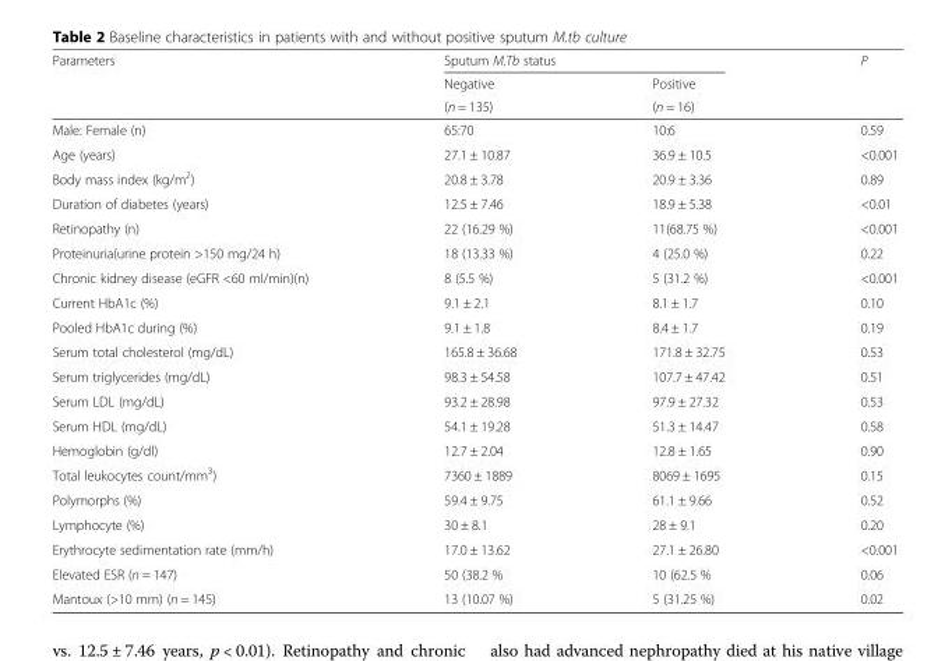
<table><thead><tr><td rowspan="3">Parameters</td><td colspan="2">Sputum M.Tb status</td><td rowspan="3">P</td></tr><tr><td rowspan="2">Negative (n = 135)</td><td rowspan="2">Positive (n = 16)</td></tr><tr></tr></thead><tbody><tr><td>Male: Female (n)</td><td>65:70</td><td>10:6</td><td>0.59</td></tr><tr><td>Age (years)</td><td>27.1 ± 10.87</td><td>36.9 ± 10.5</td><td>&lt;0.001</td></tr><tr><td>Body mass index (kg/m<sup>2</sup>)</td><td>20.8 ± 3.78</td><td>20.9 ± 3.36</td><td>0.89</td></tr><tr><td>Duration of diabetes (years)</td><td>12.5 ± 7.46</td><td>18.9 ± 5.38</td><td>&lt;0.01</td></tr><tr><td>Retinopathy (n)</td><td>22 (16.29 %)</td><td>11(68.75 %)</td><td>&lt;0.001</td></tr><tr><td>Proteinuria(urine protein &gt;150 mg/24 h)</td><td>18 (13.33 %)</td><td>4 (25.0 %)</td><td>0.22</td></tr><tr><td>Chronic kidney disease (eGFR &lt;60 ml/min)(n)</td><td>8 (5.5 %)</td><td>5 (31.2 %)</td><td>&lt;0.001</td></tr><tr><td>Current HbA1c (%)</td><td>9.1 ± 2.1</td><td>8.1 ± 1.7</td><td>0.10</td></tr><tr><td>Pooled HbA1c during (%)</td><td>9.1 ± 1.8</td><td>8.4 ± 1.7</td><td>0.19</td></tr><tr><td>Serum total cholesterol (mg/dL)</td><td>165.8 ± 36.68</td><td>171.8 ± 32.75</td><td>0.53</td></tr><tr><td>Serum triglycerides (mg/dL)</td><td>98.3 ± 54.58</td><td>107.7 ± 47.42</td><td>0.51</td></tr><tr><td>Serum LDL (mg/dL)</td><td>93.2 ± 28.98</td><td>97.9 ± 27.32</td><td>0.53</td></tr><tr><td>Serum HDL (mg/dL)</td><td>54.1 ± 19.28</td><td>51.3 ± 14.47</td><td>0.58</td></tr><tr><td>Hemoglobin (g/dl)</td><td>12.7 ± 2.04</td><td>12.8 ± 1.65</td><td>0.90</td></tr><tr><td>Total leukocytes count/mm<sup>3</sup>)</td><td>7360 ± 1889</td><td>8069 ± 1695</td><td>0.15</td></tr><tr><td>Polymorphs (%)</td><td>59.4 ± 9.75</td><td>61.1 ± 9.66</td><td>0.52</td></tr><tr><td>Lymphocyte (%)</td><td>30 ± 8.1</td><td>28 ± 9.1</td><td>0.20</td></tr><tr><td>Erythrocyte sedimentation rate (mm/h)</td><td>17.0 ± 13.62</td><td>27.1 ± 26.80</td><td>&lt;0.001</td></tr><tr><td>Elevated ESR (n = 147)</td><td>50 (38.2 %</td><td>10 (62.5 %</td><td>0.06</td></tr><tr><td>Mantoux (&gt;10 mm) (n = 145)</td><td>13 (10.07 %)</td><td>5 (31.25 %)</td><td>0.02</td></tr></tbody></table>